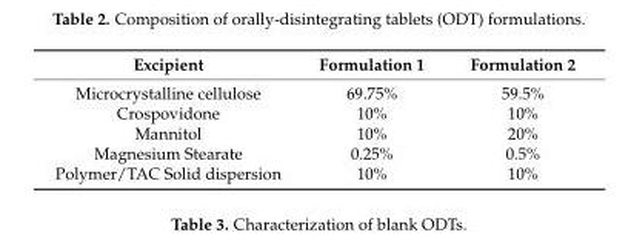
<table><thead><tr><td>Excipient</td><td>Formulation 1</td><td>Formulation 2</td></tr></thead><tbody><tr><td>Microcrystalline cellulose</td><td>69.75%</td><td>59.5%</td></tr><tr><td>Crospovidone</td><td>10%</td><td>10%</td></tr><tr><td>Mannitol</td><td>10%</td><td>20%</td></tr><tr><td>Magnesium Stearate</td><td>0.25%</td><td>0.5%</td></tr><tr><td>Polymer/TAC Solid dispersion</td><td>10%</td><td>10%</td></tr></tbody></table>